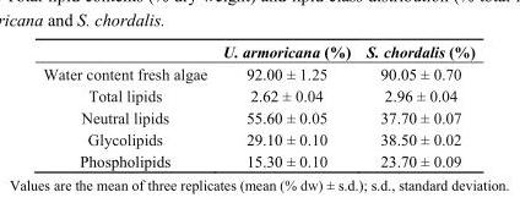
<table><thead><tr><td></td><td>U. armoricana (%)</td><td>S. chordalis (%)</td></tr></thead><tbody><tr><td>Water content fresh algae</td><td>92.00 ± 1.25</td><td>90.05 ± 0.70</td></tr><tr><td>Total lipids</td><td>2.62 ± 0.04</td><td>2.96 ± 0.04</td></tr><tr><td>Neutral lipids</td><td>55.60 ± 0.05</td><td>37.70 ± 0.07</td></tr><tr><td>Glycolipids</td><td>29.10 ± 0.10</td><td>38.50 ± 0.02</td></tr><tr><td>Phospholipids</td><td>15.30 ± 0.10</td><td>23.70 ± 0.09</td></tr></tbody></table>